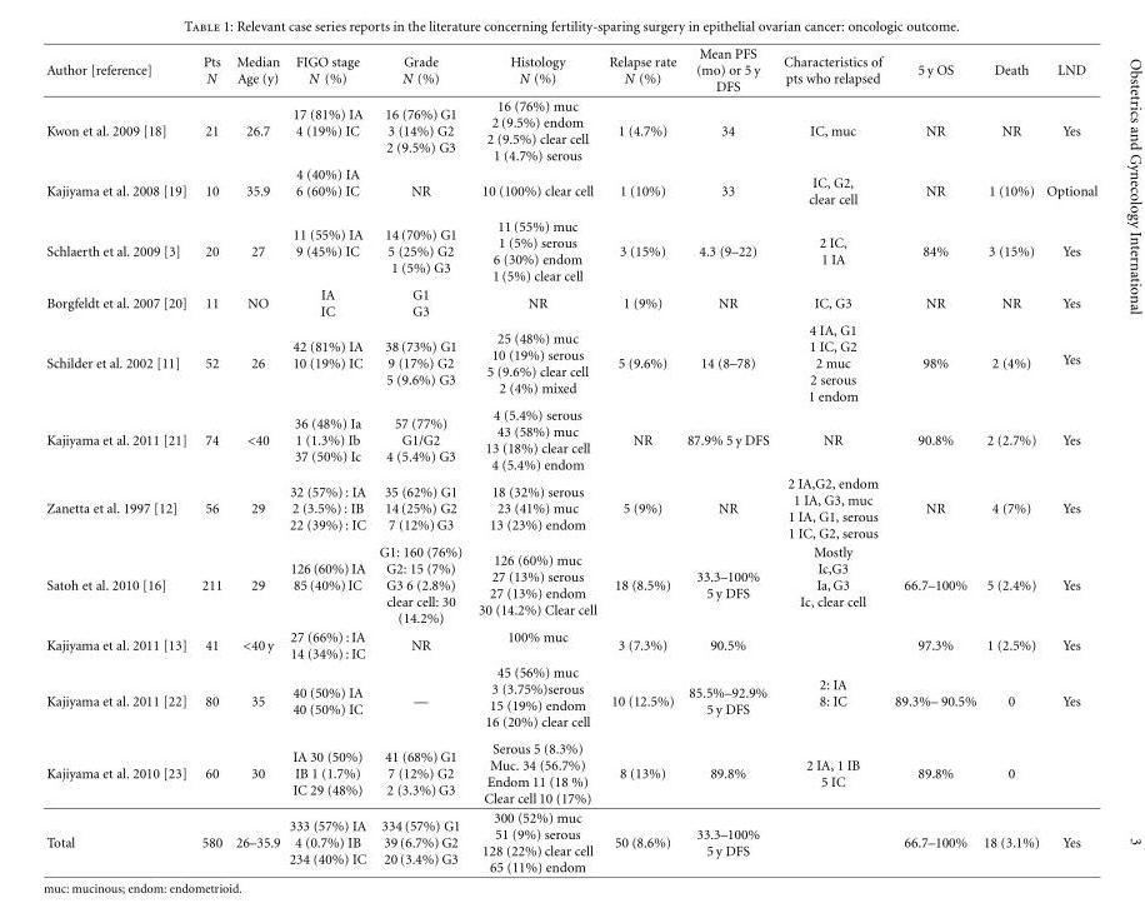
<table><thead><tr><td>Author [reference]</td><td>Pts N</td><td>Median Age (y)</td><td>FIGO stage N (%)</td><td>Grade N (%)</td><td>Histology N (%)</td><td>Relapse rate N (%)</td><td>Mean PFS (mo) or 5 y DFS</td><td>Characteristics of pts who relapsed</td><td>5 y OS</td><td>Death</td><td>LND</td></tr></thead><tbody><tr><td>Kwon et al. 2009 [18]</td><td>21</td><td>26.7</td><td>17 (81%) IA 4 (19%) IC</td><td>16 (76%) G1 3 (14%) G2 2 (9.5%) G3</td><td>16 (76%) muc 2 (9.5%) endom 2 (9.5%) clear cell 1 (4.7%) serous</td><td>1 (4.7%)</td><td>34</td><td>IC, muc</td><td>NR</td><td>NR</td><td>Yes</td></tr><tr><td>Kajiyama et al. 2008 [19]</td><td>10</td><td>35.9</td><td>4 (40%) IA 6 (60%) IC</td><td>NR</td><td>10 (100%) clear cell</td><td>1 (10%)</td><td>33</td><td>IC, G2, clear cell</td><td>NR</td><td>1 (10%)</td><td>Optional</td></tr><tr><td>Schlaerth et al. 2009 [3]</td><td>20</td><td>27</td><td>11 (55%) IA 9 (45%) IC</td><td>14 (70%) G1 5 (25%) G2 1 (5%) G3</td><td>11 (55%) muc 1 (5%) serous 6 (30%) endom 1 (5%) clear cell</td><td>3 (15%)</td><td>4.3 (9–22)</td><td>2 IC, 1 IA</td><td>84%</td><td>3 (15%)</td><td>Yes</td></tr><tr><td>Borgfeldt et al. 2007 [20]</td><td>11</td><td>NO</td><td>IA IC</td><td>G1 G3</td><td>NR</td><td>1 (9%)</td><td>NR</td><td>IC, G3</td><td>NR</td><td>NR</td><td>Yes</td></tr><tr><td>Schilder et al. 2002 [11]</td><td>52</td><td>26</td><td>42 (81%) IA 10 (19%) IC</td><td>38 (73%) G1 9 (17%) G2 5 (9.6%) G3</td><td>25 (48%) muc 10 (19%) serous 5 (9.6%) clear cell 2 (4%) mixed</td><td>5 (9.6%)</td><td>14 (8–78)</td><td>4 IA, G1 1 IC, G2 2 muc 2 serous 1 endom</td><td>98%</td><td>2 (4%)</td><td>Yes</td></tr><tr><td>Kajiyama et al. 2011 [21]</td><td>74</td><td>&lt;40</td><td>36 (48%) Ia 1 (1.3%) Ib 37 (50%) Ic</td><td>57 (77%) G1/G2 4 (5.4%) G3</td><td>4 (5.4%) serous 43 (58%) muc 13 (18%) clear cell 4 (5.4%) endom</td><td>NR</td><td>87.9% 5 y DFS</td><td>NR</td><td>90.8%</td><td>2 (2.7%)</td><td>Yes</td></tr><tr><td>Zanetta et al. 1997 [12]</td><td>56</td><td>29</td><td>32 (57%) : IA 2 (3.5%) : IB 22 (39%) : IC</td><td>35 (62%) G1 14 (25%) G2 7 (12%) G3</td><td>18 (32%) serous 23 (41%) muc 13 (23%) endom</td><td>5 (9%)</td><td>NR</td><td>2 IA,G2, endom 1 IA, G3, muc 1 IA, G1, serous 1 IC, G2, serous</td><td>NR</td><td>4 (7%)</td><td>Yes</td></tr><tr><td>Satoh et al. 2010 [16]</td><td>211</td><td>29</td><td>126 (60%) IA 85 (40%) IC</td><td>G1: 160 (76%) G2: 15 (7%) G3 6 (2.8%) clear cell: 30 (14.2%)</td><td>126 (60%) muc 27 (13%) serous 27 (13%) endom 30 (14.2%) Clear cell</td><td>18 (8.5%)</td><td>33.3–100% 5 y DFS</td><td>Mostly Ic,G3 Ia, G3 Ic, clear cell</td><td>66.7–100%</td><td>5 (2.4%)</td><td>Yes</td></tr><tr><td>Kajiyama et al. 2011 [13]</td><td>41</td><td>&lt;40 y</td><td>27 (66%) : IA 14 (34%) : IC</td><td>NR</td><td>100% muc</td><td>3 (7.3%)</td><td>90.5%</td><td></td><td>97.3%</td><td>1 (2.5%)</td><td>Yes</td></tr><tr><td>Kajiyama et al. 2011 [22]</td><td>80</td><td>35</td><td>40 (50%) IA 40 (50%) IC</td><td>—</td><td>45 (56%) muc 3 (3.75%)serous 15 (19%) endom 16 (20%) clear cell</td><td>10 (12.5%)</td><td>85.5%–92.9% 5 y DFS</td><td>2: IA 8: IC</td><td>89.3%– 90.5%</td><td>0</td><td>Yes</td></tr><tr><td>Kajiyama et al. 2010 [23]</td><td>60</td><td>30</td><td>IA 30 (50%) IB 1 (1.7%) IC 29 (48%)</td><td>41 (68%) G1 7 (12%) G2 2 (3.3%) G3</td><td>Serous 5 (8.3%) Muc. 34 (56.7%) Endom 11 (18 %) Clear cell 10 (17%)</td><td>8 (13%)</td><td>89.8%</td><td>2 IA, 1 IB 5 IC</td><td>89.8%</td><td>0</td><td></td></tr><tr><td>Total</td><td>580</td><td>26–35.9</td><td>333 (57%) IA 4 (0.7%) IB 234 (40%) IC</td><td>334 (57%) G1 39 (6.7%) G2 20 (3.4%) G3</td><td>300 (52%) muc 51 (9%) serous 128 (22%) clear cell 65 (11%) endom</td><td>50 (8.6%)</td><td>33.3–100% 5 y DFS</td><td></td><td>66.7–100%</td><td>18 (3.1%)</td><td>Yes</td></tr></tbody></table>